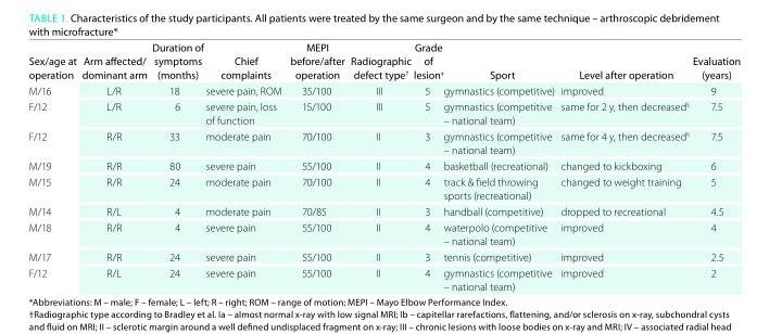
<table><thead><tr><td>Sex/age at operation</td><td>arm affected/ dominant arm</td><td>Duration of symptoms (months)</td><td>Chief complaints</td><td>MePI before/after operation</td><td>radiographic defect type<sup>†</sup></td><td>grade of lesion<sup>‡</sup></td><td>Sport</td><td>level after operation</td><td>evaluation (years)</td></tr></thead><tbody><tr><td>M/16</td><td>L/R</td><td>18</td><td>severe pain, ROM</td><td>35/100</td><td>III</td><td>5</td><td>gymnastics (competitive)</td><td>improved</td><td>9</td></tr><tr><td>F/12</td><td>L/R</td><td>6</td><td>severe pain, loss of function</td><td>15/100</td><td>III</td><td>5</td><td>gymnastics (competitive – national team)</td><td>same for 2 y, then decreased§</td><td>7.5</td></tr><tr><td>F/12</td><td>R/R</td><td>33</td><td>moderate pain</td><td>70/100</td><td>II</td><td>3</td><td>gymnastics (competitive – national team)</td><td>same for 4 y, then decreased§</td><td>7.5</td></tr><tr><td>M/19</td><td>R/R</td><td>80</td><td>severe pain</td><td>55/100</td><td>II</td><td>4</td><td>basketball (recreational)</td><td>changed to kickboxing</td><td>6</td></tr><tr><td>M/15</td><td>R/R</td><td>24</td><td>moderate pain</td><td>70/100</td><td>II</td><td>4</td><td>track &amp; field throwing sports (recreational)</td><td>changed to weight training</td><td>5</td></tr><tr><td>M/14</td><td>R/L</td><td>4</td><td>moderate pain</td><td>70/85</td><td>II</td><td>3</td><td>handball (competitive)</td><td>dropped to recreational</td><td>4.5</td></tr><tr><td>M/18</td><td>R/R</td><td>4</td><td>severe pain</td><td>55/100</td><td>II</td><td>4</td><td>waterpolo (competitive – national team)</td><td>improved</td><td>4</td></tr><tr><td>M/17</td><td>R/R</td><td>24</td><td>severe pain</td><td>55/100</td><td>II</td><td>3</td><td>tennis (competitive)</td><td>improved</td><td>2.5</td></tr><tr><td>F/12</td><td>R/L</td><td>24</td><td>severe pain</td><td>55/100</td><td>II</td><td>4</td><td>gymnastics (competitive – national team)</td><td>improved</td><td>2</td></tr></tbody></table>